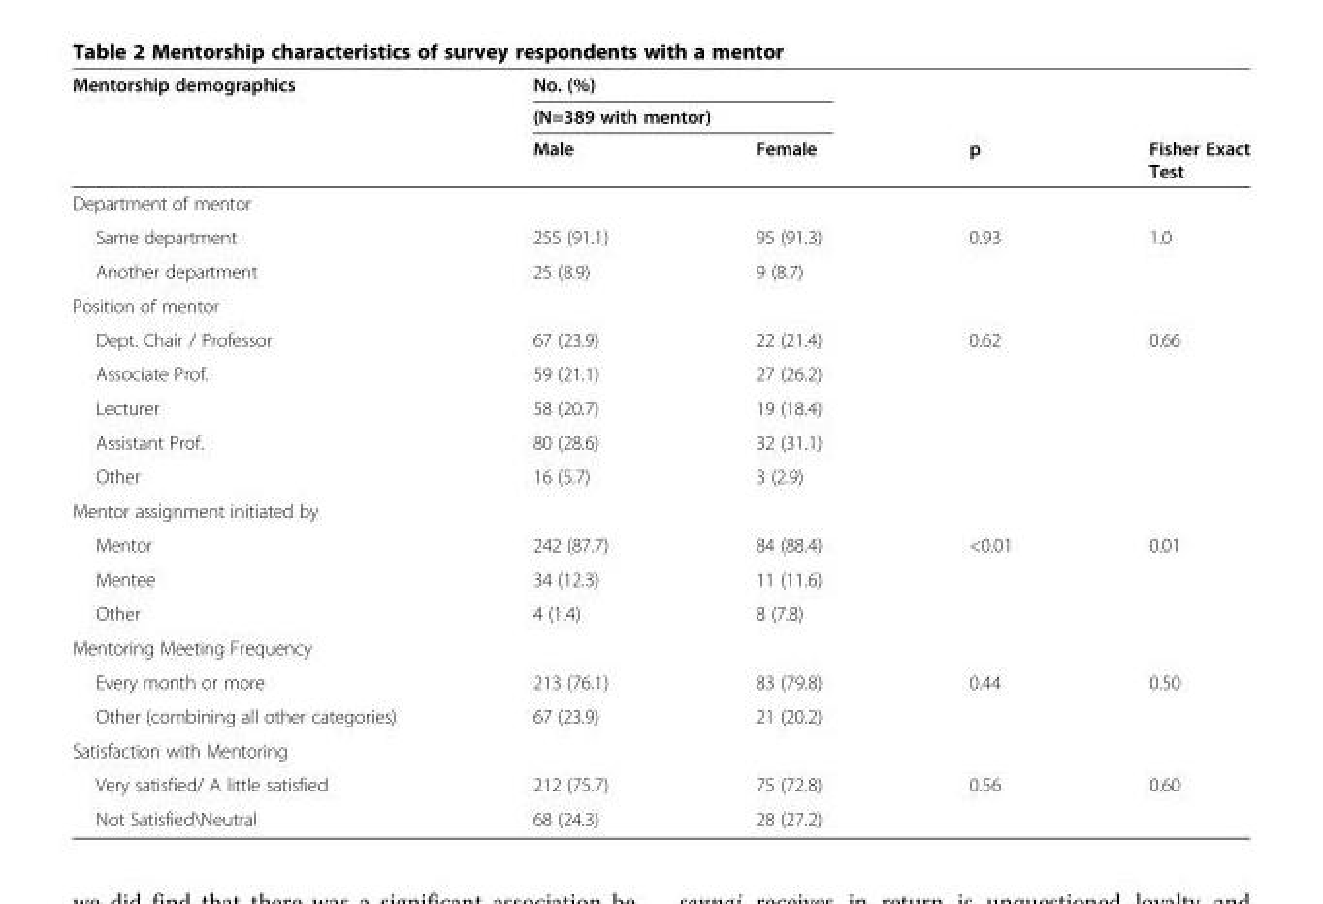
<table><thead><tr><td rowspan="3">Mentorship demographics</td><td rowspan="2" colspan="4">No. (%) (N=389 with mentor)</td></tr><tr></tr><tr><td>Male</td><td>Female</td><td>p</td><td>Fisher Exact Test</td></tr></thead><tbody><tr><td colspan="5">Department of mentor</td></tr><tr><td>Same department</td><td>255 (91.1)</td><td>95 (91.3)</td><td>0.93</td><td>1.0</td></tr><tr><td>Another department</td><td>25 (8.9)</td><td>9 (8.7)</td><td></td><td></td></tr><tr><td colspan="5">Position of mentor</td></tr><tr><td>Dept. Chair / Professor</td><td>67 (23.9)</td><td>22 (21.4)</td><td>0.62</td><td>0.66</td></tr><tr><td>Associate Prof.</td><td>59 (21.1)</td><td>27 (26.2)</td><td></td><td></td></tr><tr><td>Lecturer</td><td>58 (20.7)</td><td>19 (18.4)</td><td></td><td></td></tr><tr><td>Assistant Prof.</td><td>80 (28.6)</td><td>32 (31.1)</td><td></td><td></td></tr><tr><td>Other</td><td>16 (5.7)</td><td>3 (2.9)</td><td></td><td></td></tr><tr><td colspan="5">Mentor assignment initiated by</td></tr><tr><td>Mentor</td><td>242 (87.7)</td><td>84 (88.4)</td><td>&lt;0.01</td><td>0.01</td></tr><tr><td>Mentee</td><td>34 (12.3)</td><td>11 (11.6)</td><td></td><td></td></tr><tr><td>Other</td><td>4 (1.4)</td><td>8 (7.8)</td><td></td><td></td></tr><tr><td colspan="5">Mentoring Meeting Frequency</td></tr><tr><td>Every month or more</td><td>213 (76.1)</td><td>83 (79.8)</td><td>0.44</td><td>0.50</td></tr><tr><td>Other (combining all other categories)</td><td>67 (23.9)</td><td>21 (20.2)</td><td></td><td></td></tr><tr><td colspan="5">Satisfaction with Mentoring</td></tr><tr><td>Very satisfied/ A little satisfied</td><td>212 (75.7)</td><td>75 (72.8)</td><td>0.56</td><td>0.60</td></tr><tr><td>Not Satisfied\Neutral</td><td>68 (24.3)</td><td>28 (27.2)</td><td></td><td></td></tr></tbody></table>